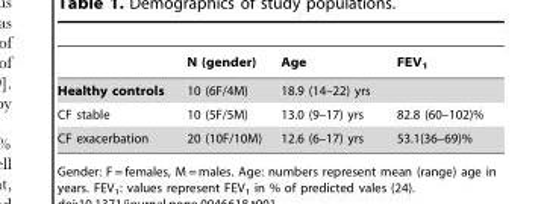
<table><thead><tr><td></td><td>N (gender)</td><td>Age</td><td>FEV<sub>1</sub></td></tr></thead><tbody><tr><td>Healthy controls</td><td>10 (6F/4M)</td><td>18.9 (14–22) yrs</td><td></td></tr><tr><td>CF stable</td><td>10 (5F/5M)</td><td>13.0 (9–17) yrs</td><td>82.8 (60–102)%</td></tr><tr><td>CF exacerbation</td><td>20 (10F/10M)</td><td>12.6 (6–17) yrs</td><td>53.1(36–69)%</td></tr></tbody></table>